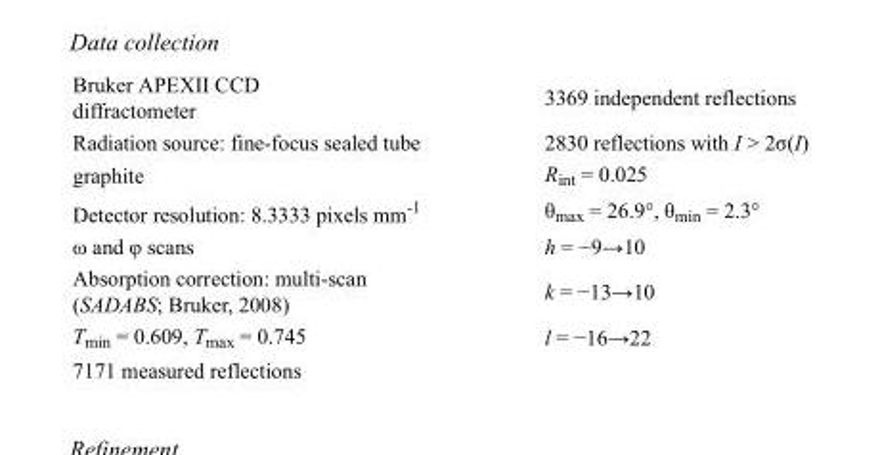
<table><tbody><tr><td>Bruker APEXII CCD diffractometer</td><td>3369 independent reflections</td></tr><tr><td>Radiation source: fine-focus sealed tube</td><td>2830 reflections with I &gt; 2σ(I)</td></tr><tr><td>graphite</td><td>R<sub>int</sub> = 0.025</td></tr><tr><td>Detector resolution: 8.3333 pixels mm<sup>-1</sup></td><td>θ<sub>max</sub> = 26.9°, θ<sub>min</sub> = 2.3°</td></tr><tr><td>ω and φ scans</td><td>h = −9→10</td></tr><tr><td>Absorption correction: multi-scan (SADABS; Bruker, 2008)</td><td>k = −13→10</td></tr><tr><td>T<sub>min</sub> = 0.609, T<sub>max</sub> = 0.745</td><td>l = −16→22</td></tr><tr><td>7171 measured reflections</td><td></td></tr></tbody></table>